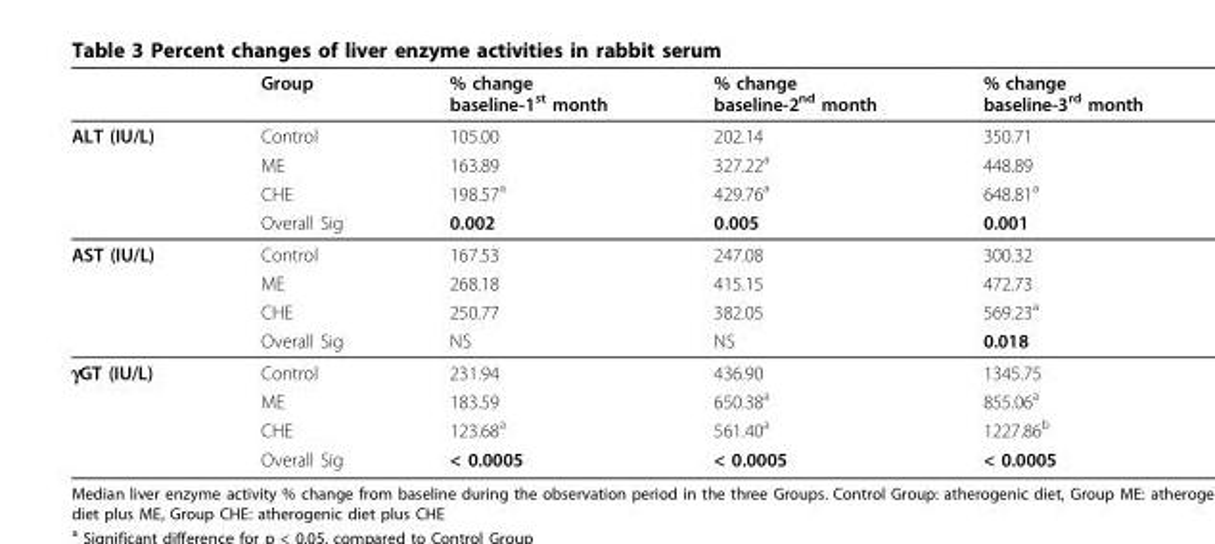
<table><thead><tr><td></td><td>Group</td><td>% change baseline-1<sup>st</sup> month</td><td>% change baseline-2<sup>nd</sup> month</td><td>% change baseline-3<sup>rd</sup> month</td></tr></thead><tbody><tr><td rowspan="4">ALT (IU/L)</td><td>Control</td><td>105.00</td><td>202.14</td><td>350.71</td></tr><tr><td>ME</td><td>163.89</td><td>327.22<sup>a</sup></td><td>448.89</td></tr><tr><td>CHE</td><td>198.57<sup>a</sup></td><td>429.76<sup>a</sup></td><td>648.81<sup>a</sup></td></tr><tr><td>Overall Sig</td><td>0.002</td><td>0.005</td><td>0.001</td></tr><tr><td rowspan="4">AST (IU/L)</td><td>Control</td><td>167.53</td><td>247.08</td><td>300.32</td></tr><tr><td>ME</td><td>268.18</td><td>415.15</td><td>472.73</td></tr><tr><td>CHE</td><td>250.77</td><td>382.05</td><td>569.23<sup>a</sup></td></tr><tr><td>Overall Sig</td><td>NS</td><td>NS</td><td>0.018</td></tr><tr><td rowspan="4">γGT (IU/L)</td><td>Control</td><td>231.94</td><td>436.90</td><td>1345.75</td></tr><tr><td>ME</td><td>183.59</td><td>650.38<sup>a</sup></td><td>855.06<sup>a</sup></td></tr><tr><td>CHE</td><td>123.68<sup>a</sup></td><td>561.40<sup>a</sup></td><td>1227.86<sup>b</sup></td></tr><tr><td>Overall Sig</td><td>&lt; 0.0005</td><td>&lt; 0.0005</td><td>&lt; 0.0005</td></tr></tbody></table>